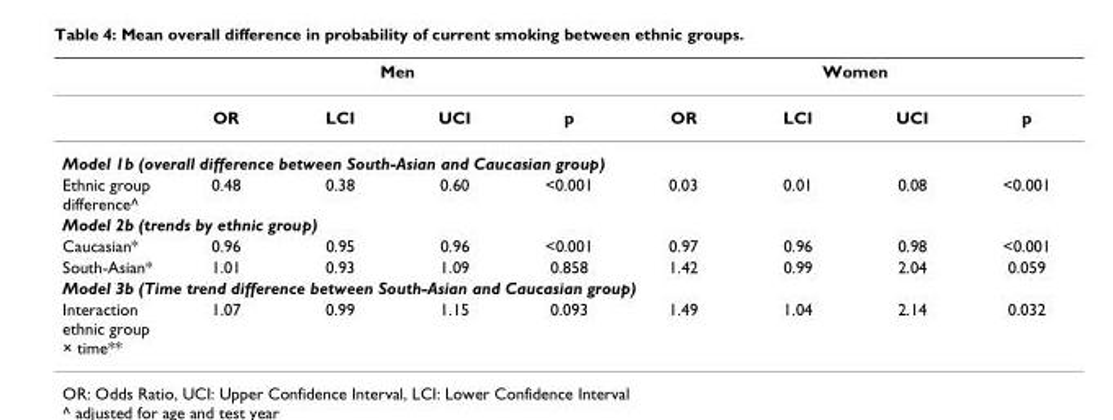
<table><thead><tr><td rowspan="2"></td><td colspan="4">Men</td><td colspan="4">Women</td></tr><tr><td>OR</td><td>LCI</td><td>UCI</td><td>p</td><td>OR</td><td>LCI</td><td>UCI</td><td>p</td></tr></thead><tbody><tr><td colspan="9">Model 1b (overall difference between South-Asian and Caucasian group)</td></tr><tr><td>Ethnic group difference^</td><td>0.48</td><td>0.38</td><td>0.60</td><td>&lt;0.001</td><td>0.03</td><td>0.01</td><td>0.08</td><td>&lt;0.001</td></tr><tr><td colspan="9">Model 2b (trends by ethnic group)</td></tr><tr><td>Caucasian*</td><td>0.96</td><td>0.95</td><td>0.96</td><td>&lt;0.001</td><td>0.97</td><td>0.96</td><td>0.98</td><td>&lt;0.001</td></tr><tr><td>South-Asian*</td><td>1.01</td><td>0.93</td><td>1.09</td><td>0.858</td><td>1.42</td><td>0.99</td><td>2.04</td><td>0.059</td></tr><tr><td colspan="9">Model 3b (Time trend difference between South-Asian and Caucasian group)</td></tr><tr><td>Interaction ethnic group × time**</td><td>1.07</td><td>0.99</td><td>1.15</td><td>0.093</td><td>1.49</td><td>1.04</td><td>2.14</td><td>0.032</td></tr></tbody></table>